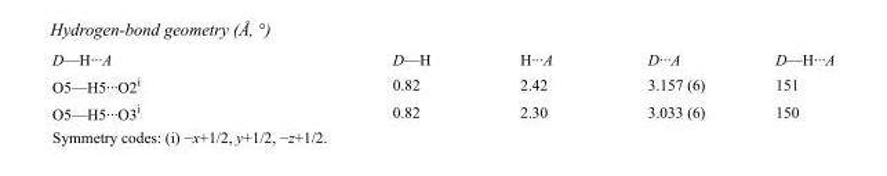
<table><tbody><tr><td>D—H···A</td><td>D—H</td><td>H···A</td><td>D···A</td><td>D—H···A</td></tr><tr><td>O5—H5···O2<sup>i</sup></td><td>0.82</td><td>2.42</td><td>3.157 (6)</td><td>151</td></tr><tr><td>O5—H5···O3<sup>i</sup></td><td>0.82</td><td>2.30</td><td>3.033 (6)</td><td>150</td></tr></tbody></table>